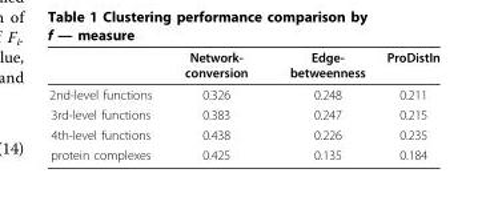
<table><thead><tr><td></td><td>Network- conversion</td><td>Edge- betweenness</td><td>ProDistIn</td></tr></thead><tbody><tr><td>2nd-level functions</td><td>0.326</td><td>0.248</td><td>0.211</td></tr><tr><td>3rd-level functions</td><td>0.383</td><td>0.247</td><td>0.215</td></tr><tr><td>4th-level functions</td><td>0.438</td><td>0.226</td><td>0.235</td></tr><tr><td>protein complexes</td><td>0.425</td><td>0.135</td><td>0.184</td></tr></tbody></table>